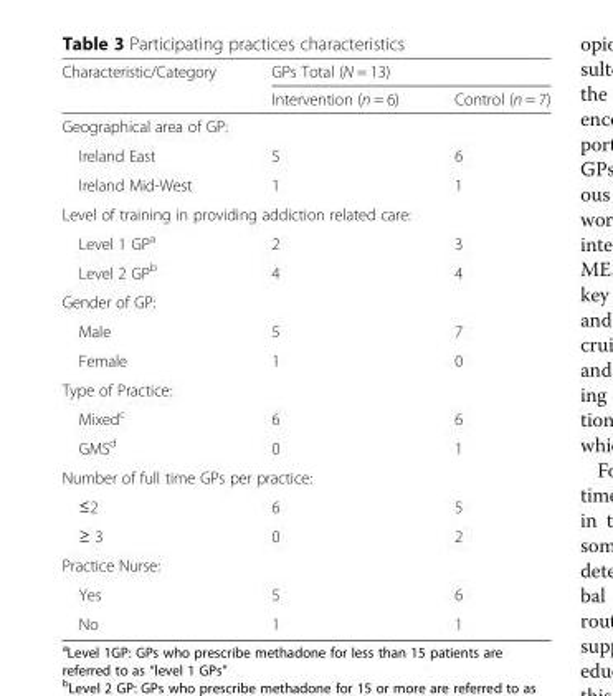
<table><thead><tr><td rowspan="2">Characteristic/Category</td><td colspan="2">GPs Total (N = 13)</td></tr><tr><td>Intervention (n = 6)</td><td>Control (n = 7)</td></tr></thead><tbody><tr><td colspan="3">Geographical area of GP:</td></tr><tr><td>Ireland East</td><td>5</td><td>6</td></tr><tr><td>Ireland Mid-West</td><td>1</td><td>1</td></tr><tr><td colspan="3">Level of training in providing addiction related care:</td></tr><tr><td>Level 1 GP<sup>a</sup></td><td>2</td><td>3</td></tr><tr><td>Level 2 GP<sup>b</sup></td><td>4</td><td>4</td></tr><tr><td colspan="3">Gender of GP:</td></tr><tr><td>Male</td><td>5</td><td>7</td></tr><tr><td>Female</td><td>1</td><td>0</td></tr><tr><td colspan="3">Type of Practice:</td></tr><tr><td>Mixed<sup>c</sup></td><td>6</td><td>6</td></tr><tr><td>GMS<sup>d</sup></td><td>0</td><td>1</td></tr><tr><td colspan="3">Number of full time GPs per practice:</td></tr><tr><td>≤2</td><td>6</td><td>5</td></tr><tr><td>≥ 3</td><td>0</td><td>2</td></tr><tr><td colspan="3">Practice Nurse:</td></tr><tr><td>Yes</td><td>5</td><td>6</td></tr><tr><td>No</td><td>1</td><td>1</td></tr></tbody></table>